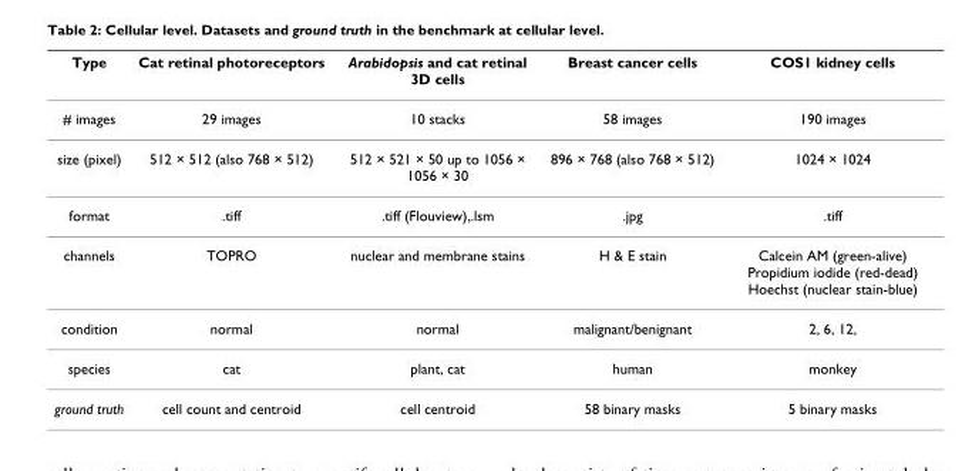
<table><thead><tr><td>Type</td><td>Cat retinal photoreceptors</td><td>Arabidopsis and cat retinal 3D cells</td><td>Breast cancer cells</td><td>COS1 kidney cells</td></tr></thead><tbody><tr><td># images</td><td>29 images</td><td>10 stacks</td><td>58 images</td><td>190 images</td></tr><tr><td>size (pixel)</td><td>512 × 512 (also 768 × 512)</td><td>512 × 521 × 50 up to 1056 × 1056 × 30</td><td>896 × 768 (also 768 × 512)</td><td>1024 × 1024</td></tr><tr><td>format</td><td>.tiff</td><td>.tiff (Flouview),.lsm</td><td>.jpg</td><td>.tiff</td></tr><tr><td>channels</td><td>TOPRO</td><td>nuclear and membrane stains</td><td>H &amp; E stain</td><td>Calcein AM (green-alive) Propidium iodide (red-dead) Hoechst (nuclear stain-blue)</td></tr><tr><td>condition</td><td>normal</td><td>normal</td><td>malignant/benignant</td><td>2, 6, 12,</td></tr><tr><td>species</td><td>cat</td><td>plant, cat</td><td>human</td><td>monkey</td></tr><tr><td>ground truth</td><td>cell count and centroid</td><td>cell centroid</td><td>58 binary masks</td><td>5 binary masks</td></tr></tbody></table>